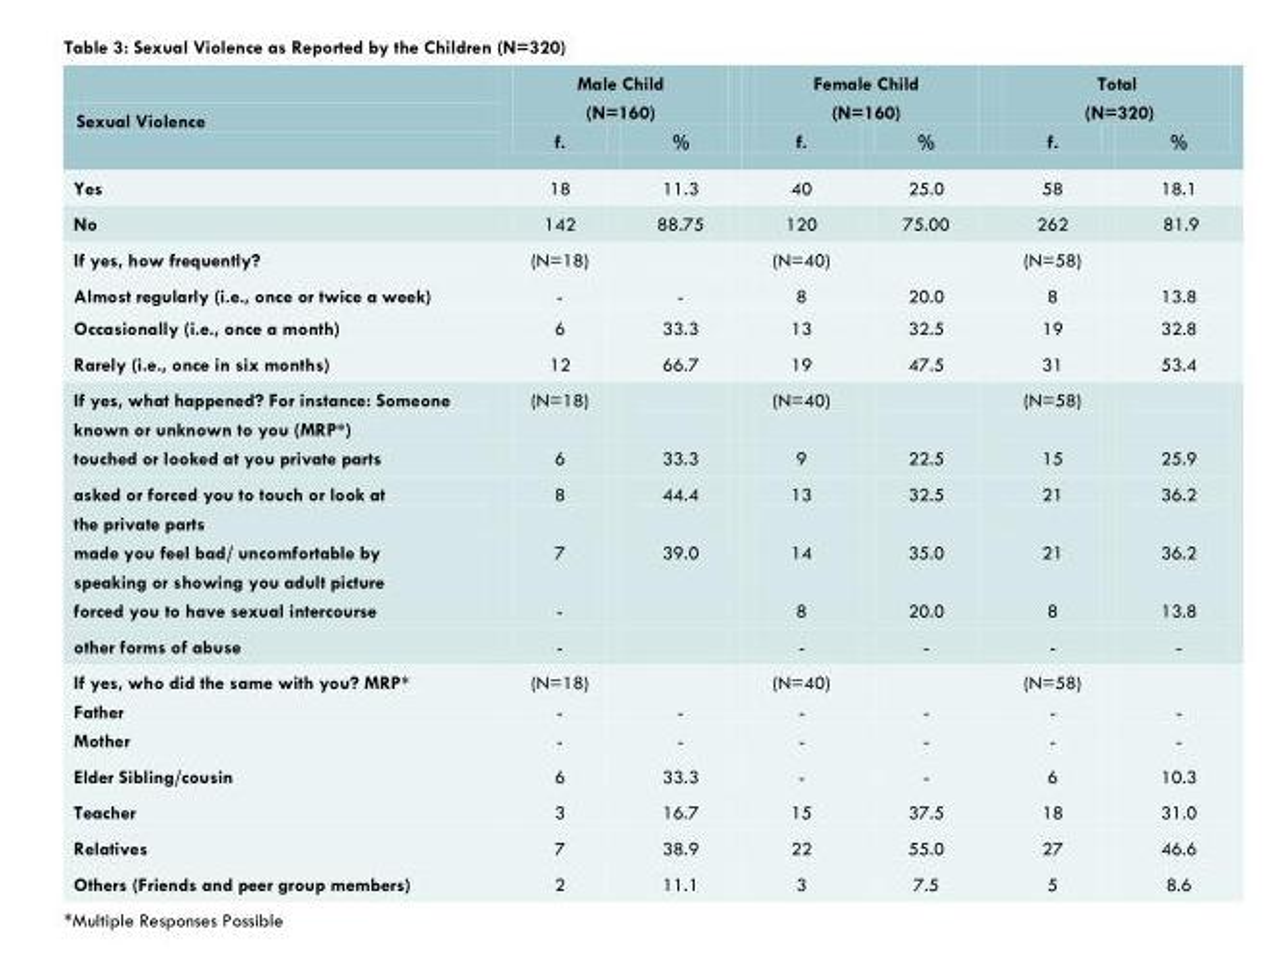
<table><thead><tr><td rowspan="2">Sexual Violence</td><td colspan="2">Male Child (N=160)</td><td colspan="2">Female Child (N=160)</td><td colspan="2">Total (N=320)</td></tr><tr><td>f.</td><td>%</td><td>f.</td><td>%</td><td>f.</td><td>%</td></tr></thead><tbody><tr><td>Yes</td><td>18</td><td>11.3</td><td>40</td><td>25.0</td><td>58</td><td>18.1</td></tr><tr><td>No</td><td>142</td><td>88.75</td><td>120</td><td>75.00</td><td>262</td><td>81.9</td></tr><tr><td>If yes, how frequently?</td><td>(N=18)</td><td></td><td>(N=40)</td><td></td><td>(N=58)</td><td></td></tr><tr><td>Almost regularly (i.e., once or twice a week)</td><td>-</td><td>-</td><td>8</td><td>20.0</td><td>8</td><td>13.8</td></tr><tr><td>Occasionally (i.e., once a month)</td><td>6</td><td>33.3</td><td>13</td><td>32.5</td><td>19</td><td>32.8</td></tr><tr><td>Rarely (i.e., once in six months)</td><td>12</td><td>66.7</td><td>19</td><td>47.5</td><td>31</td><td>53.4</td></tr><tr><td>If yes, what happened? For instance: Someone known or unknown to you (MRP*)</td><td>(N=18)</td><td></td><td>(N=40)</td><td></td><td>(N=58)</td><td></td></tr><tr><td>touched or looked at you private parts</td><td>6</td><td>33.3</td><td>9</td><td>22.5</td><td>15</td><td>25.9</td></tr><tr><td>asked or forced you to touch or look at the private parts</td><td>8</td><td>44.4</td><td>13</td><td>32.5</td><td>21</td><td>36.2</td></tr><tr><td>made you feel bad/ uncomfortable by speaking or showing you adult picture</td><td>7</td><td>39.0</td><td>14</td><td>35.0</td><td>21</td><td>36.2</td></tr><tr><td>forced you to have sexual intercourse</td><td>-</td><td></td><td>8</td><td>20.0</td><td>8</td><td>13.8</td></tr><tr><td>other forms of abuse</td><td>-</td><td></td><td>-</td><td>-</td><td>-</td><td>-</td></tr><tr><td>If yes, who did the same with you? MRP*</td><td>(N=18)</td><td></td><td>(N=40)</td><td></td><td>(N=58)</td><td></td></tr><tr><td>Father</td><td>-</td><td>-</td><td>-</td><td>-</td><td>-</td><td>-</td></tr><tr><td>Mother</td><td>-</td><td>-</td><td>-</td><td>-</td><td>-</td><td>-</td></tr><tr><td>Elder Sibling/cousin</td><td>6</td><td>33.3</td><td>-</td><td>-</td><td>6</td><td>10.3</td></tr><tr><td>Teacher</td><td>3</td><td>16.7</td><td>15</td><td>37.5</td><td>18</td><td>31.0</td></tr><tr><td>Relatives</td><td>7</td><td>38.9</td><td>22</td><td>55.0</td><td>27</td><td>46.6</td></tr><tr><td>Others (Friends and peer group members)</td><td>2</td><td>11.1</td><td>3</td><td>7.5</td><td>5</td><td>8.6</td></tr></tbody></table>